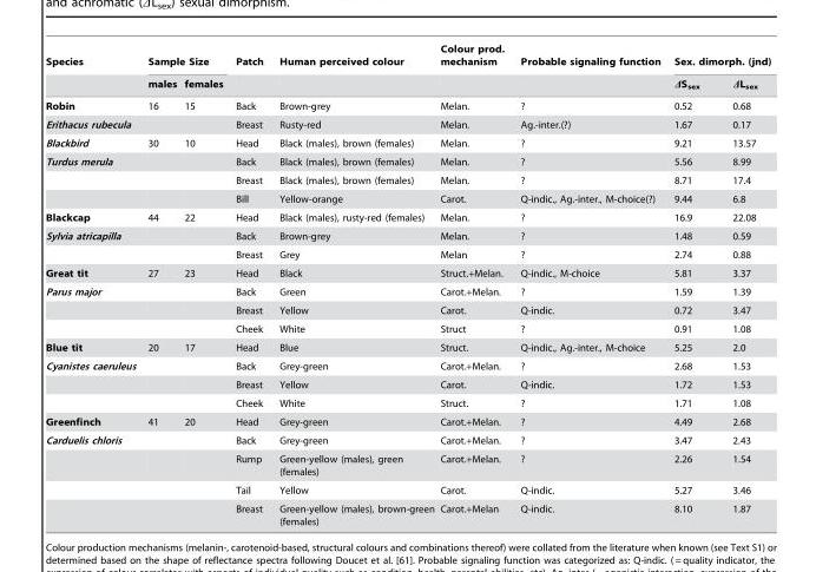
<table><thead><tr><td rowspan="2">Species</td><td colspan="2">Sample Size</td><td rowspan="2">Patch</td><td rowspan="2">Human perceived colour</td><td rowspan="2">Colour prod. mechanism</td><td rowspan="2">Probable signaling function</td><td colspan="2">Sex. dimorph. (jnd)</td></tr><tr><td>males</td><td>females</td><td>ΔS<sub>sex</sub></td><td>ΔL<sub>sex</sub></td></tr></thead><tbody><tr><td>Robin</td><td>16</td><td>15</td><td>Back</td><td>Brown-grey</td><td>Melan.</td><td>?</td><td>0.52</td><td>0.68</td></tr><tr><td>Erithacus rubecula</td><td></td><td></td><td>Breast</td><td>Rusty-red</td><td>Melan.</td><td>Ag.-inter.(?)</td><td>1.67</td><td>0.17</td></tr><tr><td>Blackbird</td><td>30</td><td>10</td><td>Head</td><td>Black (males), brown (females)</td><td>Melan.</td><td>?</td><td>9.21</td><td>13.57</td></tr><tr><td rowspan="3">Turdus merula</td><td></td><td></td><td>Back</td><td>Black (males), brown (females)</td><td>Melan.</td><td>?</td><td>5.56</td><td>8.99</td></tr><tr><td></td><td></td><td>Breast</td><td>Black (males), brown (females)</td><td>Melan.</td><td>?</td><td>8.71</td><td>17.4</td></tr><tr><td></td><td></td><td>Bill</td><td>Yellow-orange</td><td>Carot.</td><td>Q-indic., Ag.-inter., M-choice(?)</td><td>9.44</td><td>6.8</td></tr><tr><td>Blackcap</td><td>44</td><td>22</td><td>Head</td><td>Black (males), rusty-red (females)</td><td>Melan.</td><td>?</td><td>16.9</td><td>22.08</td></tr><tr><td rowspan="2">Sylvia atricapilla</td><td></td><td></td><td>Back</td><td>Brown-grey</td><td>Melan.</td><td>?</td><td>1.48</td><td>0.59</td></tr><tr><td></td><td></td><td>Breast</td><td>Grey</td><td>Melan</td><td>?</td><td>2.74</td><td>0.88</td></tr><tr><td>Great tit</td><td>27</td><td>23</td><td>Head</td><td>Black</td><td>Struct.+Melan.</td><td>Q-indic., M-choice</td><td>5.81</td><td>3.37</td></tr><tr><td rowspan="3">Parus major</td><td></td><td></td><td>Back</td><td>Green</td><td>Carot.+Melan.</td><td>?</td><td>1.59</td><td>1.39</td></tr><tr><td></td><td></td><td>Breast</td><td>Yellow</td><td>Carot.</td><td>Q-indic.</td><td>0.72</td><td>3.47</td></tr><tr><td></td><td></td><td>Cheek</td><td>White</td><td>Struct</td><td>?</td><td>0.91</td><td>1.08</td></tr><tr><td>Blue tit</td><td>20</td><td>17</td><td>Head</td><td>Blue</td><td>Struct.</td><td>Q-indic., Ag.-inter., M-choice</td><td>5.25</td><td>2.0</td></tr><tr><td rowspan="3">Cyanistes caeruleus</td><td></td><td></td><td>Back</td><td>Grey-green</td><td>Carot.+Melan.</td><td>?</td><td>2.68</td><td>1.53</td></tr><tr><td></td><td></td><td>Breast</td><td>Yellow</td><td>Carot.</td><td>Q-indic.</td><td>1.72</td><td>1.53</td></tr><tr><td></td><td></td><td>Cheek</td><td>White</td><td>Struct.</td><td>?</td><td>1.71</td><td>1.08</td></tr><tr><td>Greenfinch</td><td>41</td><td>20</td><td>Head</td><td>Grey-green</td><td>Carot.+Melan.</td><td>?</td><td>4.49</td><td>2.68</td></tr><tr><td rowspan="4">Carduelis chloris</td><td></td><td></td><td>Back</td><td>Grey-green</td><td>Carot.+Melan.</td><td>?</td><td>3.47</td><td>2.43</td></tr><tr><td></td><td></td><td>Rump</td><td>Green-yellow (males), green (females)</td><td>Carot.+Melan.</td><td>?</td><td>2.26</td><td>1.54</td></tr><tr><td></td><td></td><td>Tail</td><td>Yellow</td><td>Carot.</td><td>Q-indic.</td><td>5.27</td><td>3.46</td></tr><tr><td></td><td></td><td>Breast</td><td>Green-yellow (males), brown-green (females)</td><td>Carot.+Melan</td><td>Q-indic.</td><td>8.10</td><td>1.87</td></tr></tbody></table>